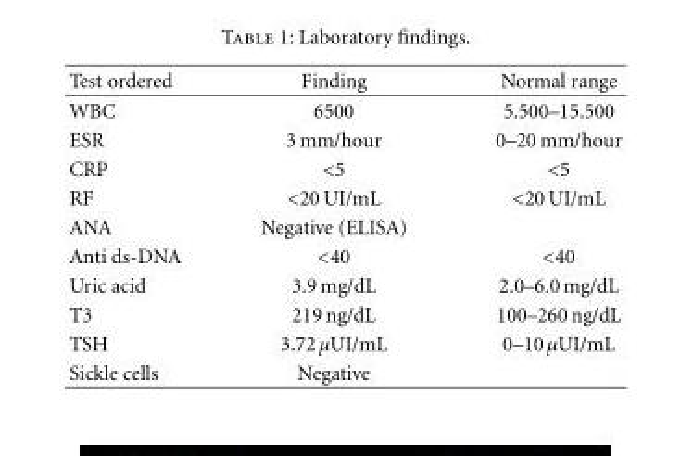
<table><thead><tr><td>Test ordered</td><td>Finding</td><td>Normal range</td></tr></thead><tbody><tr><td>WBC</td><td>6500</td><td>5.500–15.500</td></tr><tr><td>ESR</td><td>3 mm/hour</td><td>0–20 mm/hour</td></tr><tr><td>CRP</td><td>&lt;5</td><td>&lt;5</td></tr><tr><td>RF</td><td>&lt;20 UI/mL</td><td>&lt;20 UI/mL</td></tr><tr><td>ANA</td><td>Negative (ELISA)</td><td></td></tr><tr><td>Anti ds-DNA</td><td>&lt;40</td><td>&lt;40</td></tr><tr><td>Uric acid</td><td>3.9 mg/dL</td><td>2.0–6.0 mg/dL</td></tr><tr><td>T3</td><td>219 ng/dL</td><td>100–260 ng/dL</td></tr><tr><td>TSH</td><td>3.72 µUI/mL</td><td>0–10 µUI/mL</td></tr><tr><td>Sickle cells</td><td>Negative</td><td></td></tr></tbody></table>